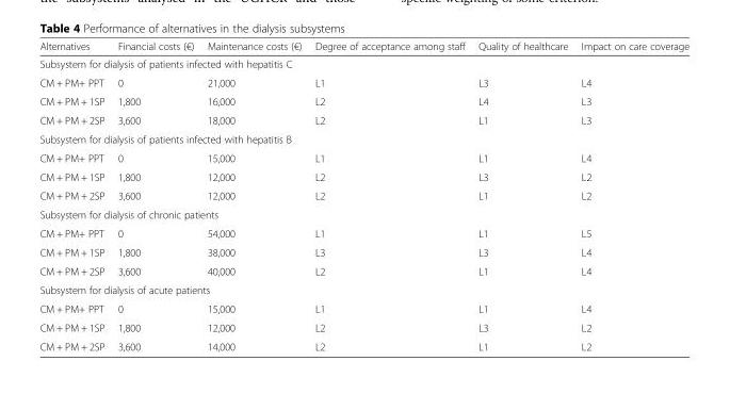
<table><thead><tr><td>Alternatives</td><td>Financial costs (€)</td><td>Maintenance costs (€)</td><td>Degree of acceptance among staff</td><td>Quality of healthcare</td><td>Impact on care coverage</td></tr></thead><tbody><tr><td colspan="6">Subsystem for dialysis of patients infected with hepatitis C</td></tr><tr><td>CM + PM+ PPT</td><td>0</td><td>21,000</td><td>L1</td><td>L3</td><td>L4</td></tr><tr><td>CM + PM + 1SP</td><td>1,800</td><td>16,000</td><td>L2</td><td>L4</td><td>L3</td></tr><tr><td>CM + PM + 2SP</td><td>3,600</td><td>18,000</td><td>L2</td><td>L1</td><td>L3</td></tr><tr><td colspan="6">Subsystem for dialysis of patients infected with hepatitis B</td></tr><tr><td>CM + PM+ PPT</td><td>0</td><td>15,000</td><td>L1</td><td>L1</td><td>L4</td></tr><tr><td>CM + PM + 1SP</td><td>1,800</td><td>12,000</td><td>L2</td><td>L3</td><td>L2</td></tr><tr><td>CM + PM + 2SP</td><td>3,600</td><td>12,000</td><td>L2</td><td>L1</td><td>L2</td></tr><tr><td colspan="6">Subsystem for dialysis of chronic patients</td></tr><tr><td>CM + PM+ PPT</td><td>0</td><td>54,000</td><td>L1</td><td>L1</td><td>L5</td></tr><tr><td>CM + PM + 1SP</td><td>1,800</td><td>38,000</td><td>L3</td><td>L3</td><td>L4</td></tr><tr><td>CM + PM + 2SP</td><td>3,600</td><td>40,000</td><td>L2</td><td>L1</td><td>L4</td></tr><tr><td colspan="6">Subsystem for dialysis of acute patients</td></tr><tr><td>CM + PM+ PPT</td><td>0</td><td>15,000</td><td>L1</td><td>L1</td><td>L4</td></tr><tr><td>CM + PM + 1SP</td><td>1,800</td><td>12,000</td><td>L2</td><td>L3</td><td>L2</td></tr><tr><td>CM + PM + 2SP</td><td>3,600</td><td>14,000</td><td>L2</td><td>L1</td><td>L2</td></tr></tbody></table>